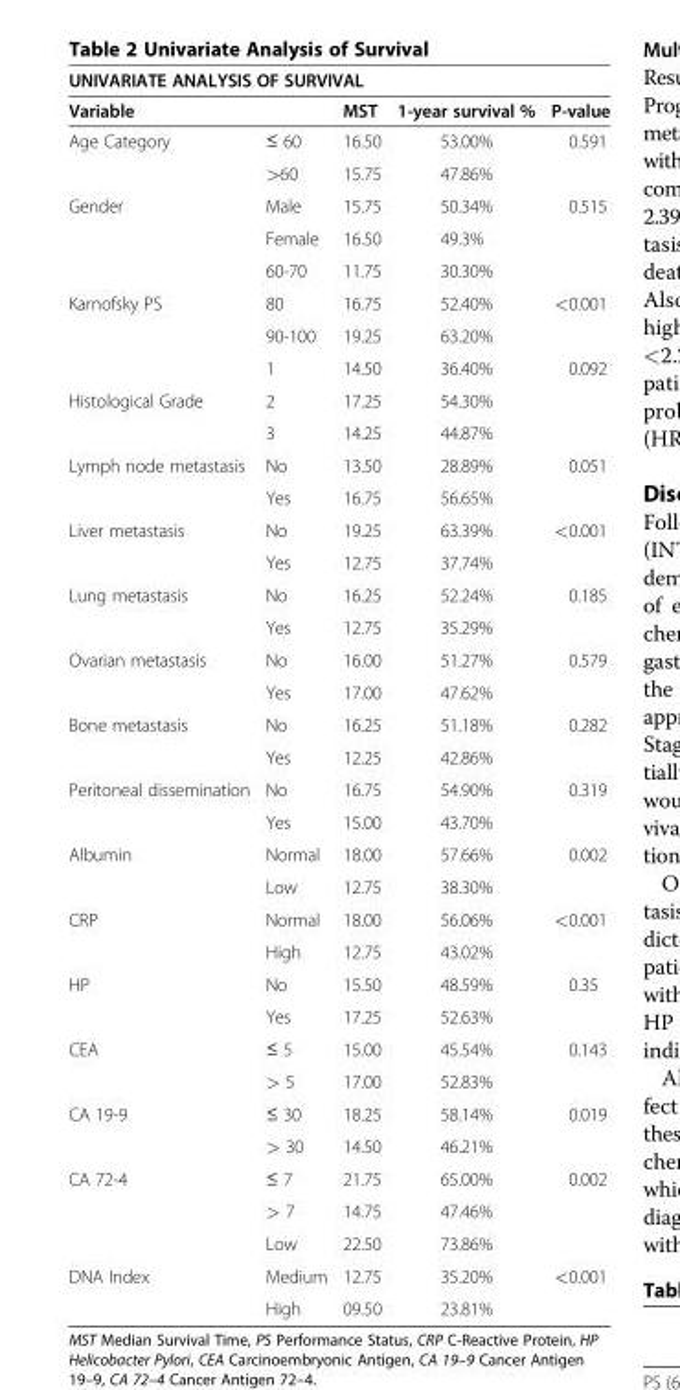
<table><thead><tr><td colspan="5">UNIVARIATE ANALYSIS OF SURVIVAL</td></tr><tr><td colspan="2">Variable</td><td rowspan="2">MST 16.50</td><td rowspan="2">1-year survival % 53.00%</td><td rowspan="2">P-value 0.591</td></tr><tr><td>Age Category</td><td>≤ 60</td></tr></thead><tbody><tr><td></td><td>&gt;60</td><td>15.75</td><td>47.86%</td><td></td></tr><tr><td rowspan="3">Gender</td><td>Male</td><td>15.75</td><td>50.34%</td><td>0.515</td></tr><tr><td>Female</td><td>16.50</td><td>49.3%</td><td></td></tr><tr><td>60-70</td><td>11.75</td><td>30.30%</td><td></td></tr><tr><td rowspan="3">Karnofsky PS</td><td>80</td><td>16.75</td><td>52.40%</td><td>&lt;0.001</td></tr><tr><td>90-100</td><td>19.25</td><td>63.20%</td><td></td></tr><tr><td>1</td><td>14.50</td><td>36.40%</td><td>0.092</td></tr><tr><td rowspan="2">Histological Grade</td><td>2</td><td>17.25</td><td>54.30%</td><td></td></tr><tr><td>3</td><td>14.25</td><td>44.87%</td><td></td></tr><tr><td rowspan="2">Lymph node metastasis</td><td>No</td><td>13.50</td><td>28.89%</td><td>0.051</td></tr><tr><td>Yes</td><td>16.75</td><td>56.65%</td><td></td></tr><tr><td rowspan="2">Liver metastasis</td><td>No</td><td>19.25</td><td>63.39%</td><td>&lt;0.001</td></tr><tr><td>Yes</td><td>12.75</td><td>37.74%</td><td></td></tr><tr><td rowspan="2">Lung metastasis</td><td>No</td><td>16.25</td><td>52.24%</td><td>0.185</td></tr><tr><td>Yes</td><td>12.75</td><td>35.29%</td><td></td></tr><tr><td rowspan="2">Ovarian metastasis</td><td>No</td><td>16.00</td><td>51.27%</td><td>0.579</td></tr><tr><td>Yes</td><td>17.00</td><td>47.62%</td><td></td></tr><tr><td rowspan="2">Bone metastasis</td><td>No</td><td>16.25</td><td>51.18%</td><td>0.282</td></tr><tr><td>Yes</td><td>12.25</td><td>42.86%</td><td></td></tr><tr><td rowspan="2">Peritoneal dissemination</td><td>No</td><td>16.75</td><td>54.90%</td><td>0.319</td></tr><tr><td>Yes</td><td>15.00</td><td>43.70%</td><td></td></tr><tr><td rowspan="2">Albumin</td><td>Normal</td><td>18.00</td><td>57.66%</td><td>0.002</td></tr><tr><td>Low</td><td>12.75</td><td>38.30%</td><td></td></tr><tr><td rowspan="2">CRP</td><td>Normal</td><td>18.00</td><td>56.06%</td><td>&lt;0.001</td></tr><tr><td>High</td><td>12.75</td><td>43.02%</td><td></td></tr><tr><td rowspan="2">HP</td><td>No</td><td>15.50</td><td>48.59%</td><td>0.35</td></tr><tr><td>Yes</td><td>17.25</td><td>52.63%</td><td></td></tr><tr><td rowspan="2">CEA</td><td>≤ 5</td><td>15.00</td><td>45.54%</td><td>0.143</td></tr><tr><td>&gt; 5</td><td>17.00</td><td>52.83%</td><td></td></tr><tr><td rowspan="2">CA 19-9</td><td>≤ 30</td><td>18.25</td><td>58.14%</td><td>0.019</td></tr><tr><td>&gt; 30</td><td>14.50</td><td>46.21%</td><td></td></tr><tr><td rowspan="3">CA 72-4</td><td>≤ 7</td><td>21.75</td><td>65.00%</td><td>0.002</td></tr><tr><td>&gt; 7</td><td>14.75</td><td>47.46%</td><td></td></tr><tr><td>Low</td><td>22.50</td><td>73.86%</td><td></td></tr><tr><td rowspan="2">DNA Index</td><td>Medium</td><td>12.75</td><td>35.20%</td><td>&lt;0.001</td></tr><tr><td>High</td><td>09.50</td><td>23.81%</td><td></td></tr></tbody></table>